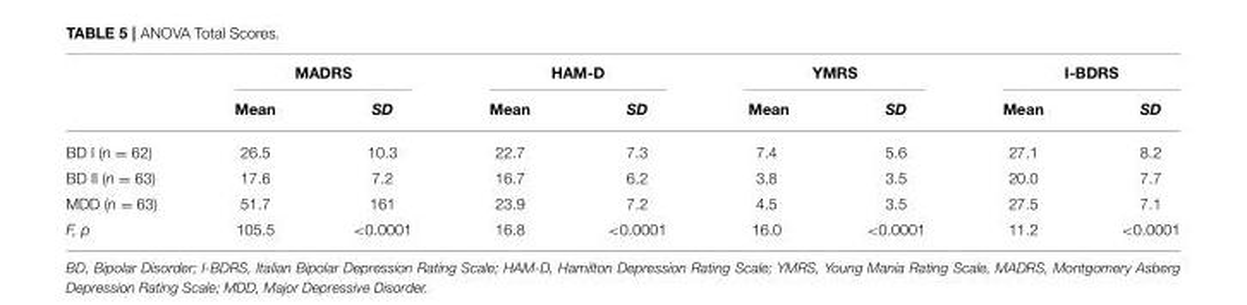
<table><thead><tr><td rowspan="2"></td><td colspan="2">MADRS</td><td colspan="2">HAM-D</td><td colspan="2">YMRS</td><td colspan="2">I-BDRS</td></tr><tr><td>Mean</td><td>SD</td><td>Mean</td><td>SD</td><td>Mean</td><td>SD</td><td>Mean</td><td>SD</td></tr></thead><tbody><tr><td>BD I (n = 62)</td><td>26.5</td><td>10.3</td><td>22.7</td><td>7.3</td><td>7.4</td><td>5.6</td><td>27.1</td><td>8.2</td></tr><tr><td>BD II (n = 63)</td><td>17.6</td><td>7.2</td><td>16.7</td><td>6.2</td><td>3.8</td><td>3.5</td><td>20.0</td><td>7.7</td></tr><tr><td>MDD (n = 63)</td><td>51.7</td><td>161</td><td>23.9</td><td>7.2</td><td>4.5</td><td>3.5</td><td>27.5</td><td>7.1</td></tr><tr><td>F, p</td><td>105.5</td><td>&lt;0.0001</td><td>16.8</td><td>&lt;0.0001</td><td>16.0</td><td>&lt;0.0001</td><td>11.2</td><td>&lt;0.0001</td></tr></tbody></table>